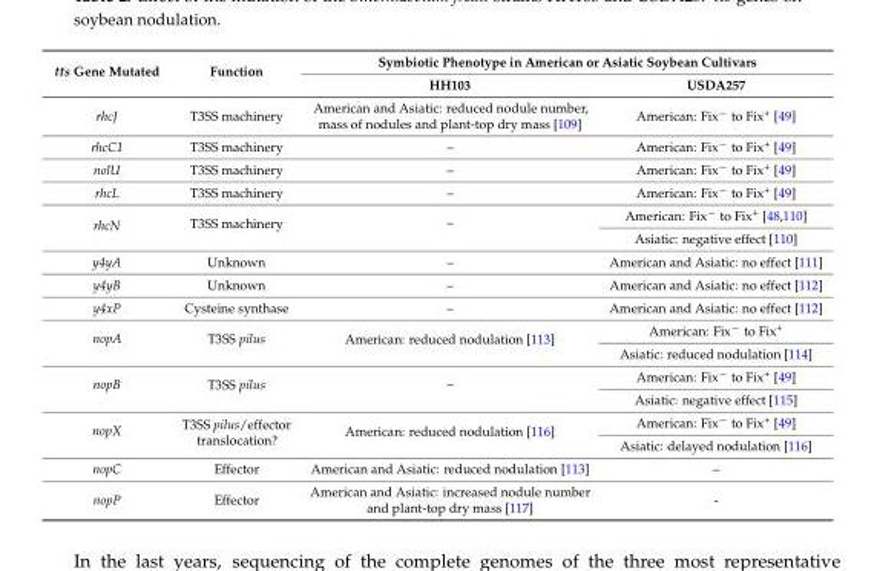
<table><thead><tr><td rowspan="2">tts Gene Mutated</td><td rowspan="2">Function</td><td colspan="2">Symbiotic Phenotype in American or Asiatic Soybean Cultivars</td></tr><tr><td>HH103</td><td>USDA257</td></tr></thead><tbody><tr><td>rhcJ</td><td>T3SS machinery</td><td>American and Asiatic: reduced nodule number, mass of nodules and plant-top dry mass [109]</td><td>American: Fix<sup>−</sup> to Fix<sup>+</sup> [49]</td></tr><tr><td>rhcC1</td><td>T3SS machinery</td><td>–</td><td>American: Fix<sup>−</sup> to Fix<sup>+</sup> [49]</td></tr><tr><td>nolU</td><td>T3SS machinery</td><td>–</td><td>American: Fix<sup>−</sup> to Fix<sup>+</sup> [49]</td></tr><tr><td>rhcL</td><td>T3SS machinery</td><td>–</td><td>American: Fix<sup>−</sup> to Fix<sup>+</sup> [49]</td></tr><tr><td rowspan="2">rhcN</td><td rowspan="2">T3SS machinery</td><td rowspan="2">–</td><td>American: Fix<sup>−</sup> to Fix<sup>+</sup> [48,110]</td></tr><tr><td>Asiatic: negative effect [110]</td></tr><tr><td>y4yA</td><td>Unknown</td><td>–</td><td>American and Asiatic: no effect [111]</td></tr><tr><td>y4yB</td><td>Unknown</td><td>–</td><td>American and Asiatic: no effect [112]</td></tr><tr><td>y4xP</td><td>Cysteine synthase</td><td>–</td><td>American and Asiatic: no effect [112]</td></tr><tr><td rowspan="2">nopA</td><td rowspan="2">T3SS pilus</td><td rowspan="2">American: reduced nodulation [113]</td><td>American: Fix<sup>−</sup> to Fix<sup>+</sup></td></tr><tr><td>Asiatic: reduced nodulation [114]</td></tr><tr><td rowspan="2">nopB</td><td rowspan="2">T3SS pilus</td><td rowspan="2">–</td><td>American: Fix<sup>−</sup> to Fix<sup>+</sup> [49]</td></tr><tr><td>Asiatic: negative effect [115]</td></tr><tr><td rowspan="2">nopX</td><td rowspan="2">T3SS pilus/effector translocation?</td><td rowspan="2">American: reduced nodulation [116]</td><td>American: Fix<sup>−</sup> to Fix<sup>+</sup> [49]</td></tr><tr><td>Asiatic: delayed nodulation [116]</td></tr><tr><td>nopC</td><td>Effector</td><td>American and Asiatic: reduced nodulation [113]</td><td>–</td></tr><tr><td>nopP</td><td>Effector</td><td>American and Asiatic: increased nodule number and plant-top dry mass [117]</td><td>-</td></tr></tbody></table>